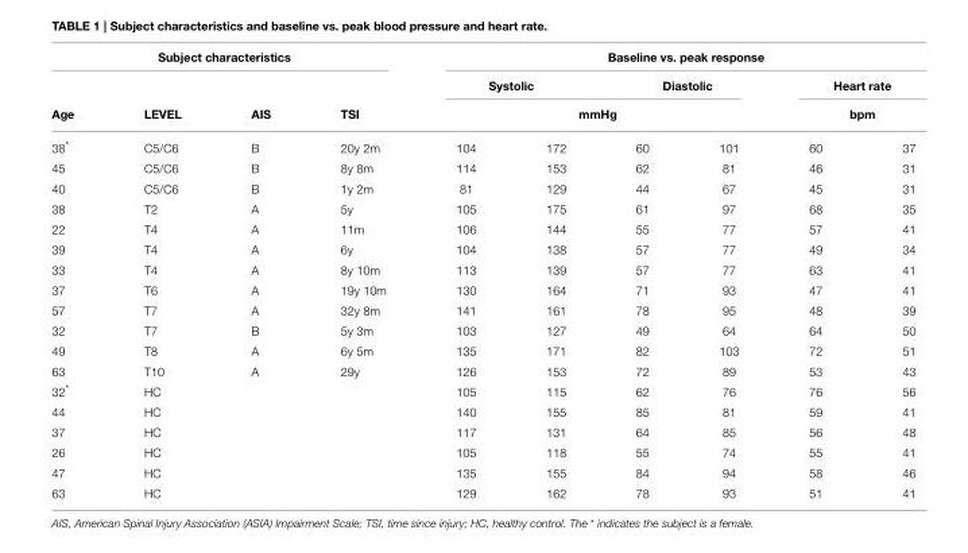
<table><thead><tr><td colspan="4">Subject characteristics</td><td colspan="6">Baseline vs. peak response</td></tr><tr><td rowspan="3">Age 38*</td><td rowspan="3">LEVEL C5/C6</td><td rowspan="3">AIS B</td><td rowspan="3">TSI 20y 2m</td><td colspan="2">Systolic</td><td colspan="2">Diastolic</td><td rowspan="2" colspan="2">Heart rate bpm</td></tr><tr><td colspan="4">mmHg</td></tr><tr><td>104</td><td>172</td><td>60</td><td>101</td><td>60</td><td>37</td></tr></thead><tbody><tr><td>45</td><td>C5/C6</td><td>B</td><td>8y 8m</td><td>114</td><td>153</td><td>62</td><td>81</td><td>46</td><td>31</td></tr><tr><td>40</td><td>C5/C6</td><td>B</td><td>1y 2m</td><td>81</td><td>129</td><td>44</td><td>67</td><td>45</td><td>31</td></tr><tr><td>38</td><td>T2</td><td>A</td><td>5y</td><td>105</td><td>175</td><td>61</td><td>97</td><td>68</td><td>35</td></tr><tr><td>22</td><td>T4</td><td>A</td><td>11m</td><td>106</td><td>144</td><td>55</td><td>77</td><td>57</td><td>41</td></tr><tr><td>39</td><td>T4</td><td>A</td><td>6y</td><td>104</td><td>138</td><td>57</td><td>77</td><td>49</td><td>34</td></tr><tr><td>33</td><td>T4</td><td>A</td><td>8y 10m</td><td>113</td><td>139</td><td>57</td><td>77</td><td>63</td><td>41</td></tr><tr><td>37</td><td>T6</td><td>A</td><td>19y 10m</td><td>130</td><td>164</td><td>71</td><td>93</td><td>47</td><td>41</td></tr><tr><td>57</td><td>T7</td><td>A</td><td>32y 8m</td><td>141</td><td>161</td><td>78</td><td>95</td><td>48</td><td>39</td></tr><tr><td>32</td><td>T7</td><td>B</td><td>5y 3m</td><td>103</td><td>127</td><td>49</td><td>64</td><td>64</td><td>50</td></tr><tr><td>49</td><td>T8</td><td>A</td><td>6y 5m</td><td>135</td><td>171</td><td>82</td><td>103</td><td>72</td><td>51</td></tr><tr><td>63</td><td>T10</td><td>A</td><td>29y</td><td>126</td><td>153</td><td>72</td><td>89</td><td>53</td><td>43</td></tr><tr><td>32*</td><td>HC</td><td></td><td></td><td>105</td><td>115</td><td>62</td><td>76</td><td>76</td><td>56</td></tr><tr><td>44</td><td>HC</td><td></td><td></td><td>140</td><td>155</td><td>85</td><td>81</td><td>59</td><td>41</td></tr><tr><td>37</td><td>HC</td><td></td><td></td><td>117</td><td>131</td><td>64</td><td>85</td><td>56</td><td>48</td></tr><tr><td>26</td><td>HC</td><td></td><td></td><td>105</td><td>118</td><td>55</td><td>74</td><td>55</td><td>41</td></tr><tr><td>47</td><td>HC</td><td></td><td></td><td>135</td><td>155</td><td>84</td><td>94</td><td>58</td><td>46</td></tr><tr><td>63</td><td>HC</td><td></td><td></td><td>129</td><td>162</td><td>78</td><td>93</td><td>51</td><td>41</td></tr></tbody></table>